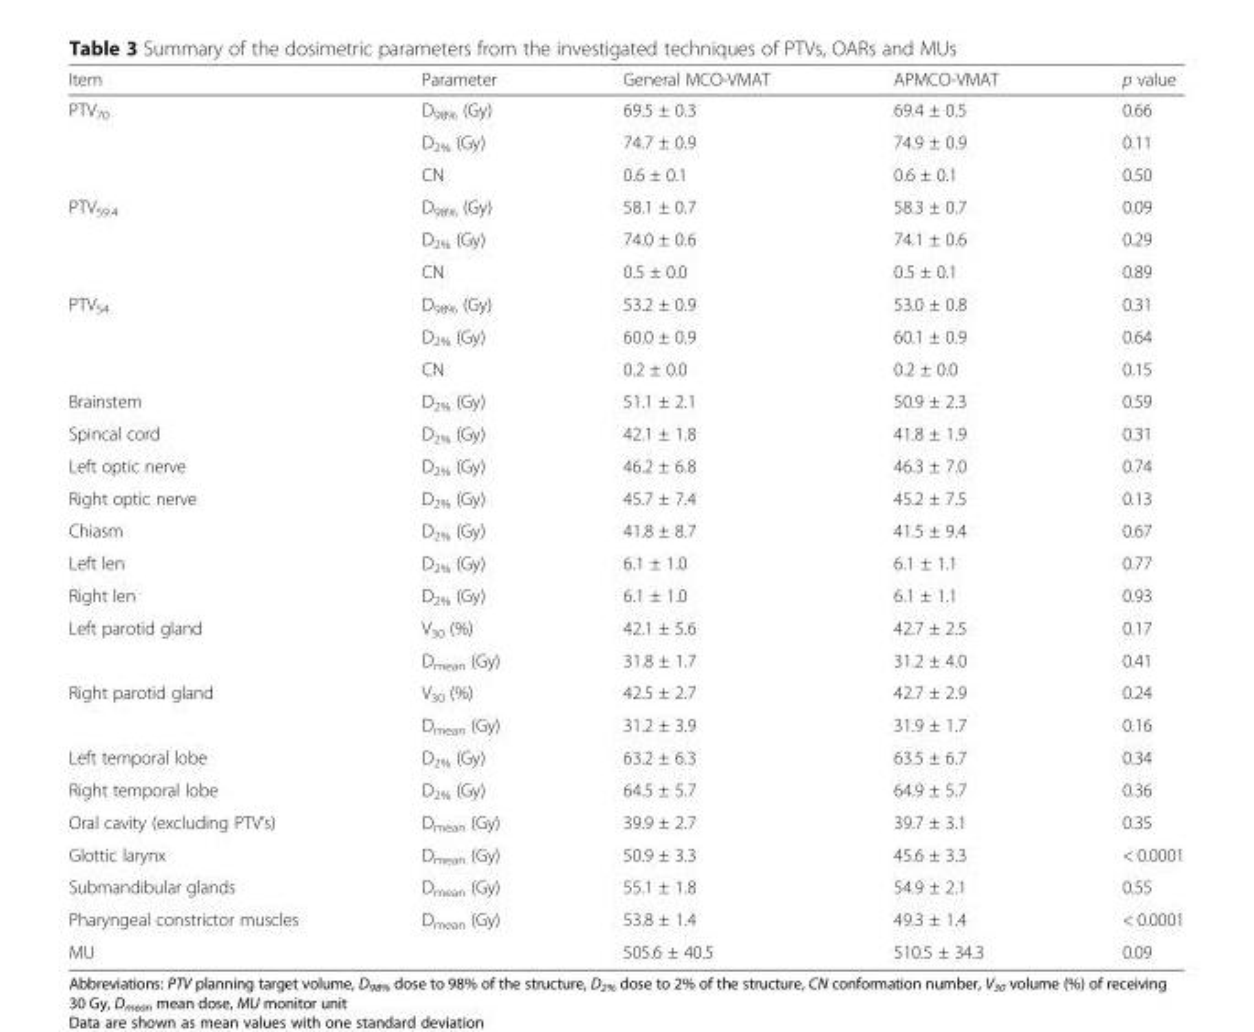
<table><thead><tr><td>Item</td><td>Parameter</td><td>General MCO-VMAT</td><td>APMCO-VMAT</td><td>p value</td></tr></thead><tbody><tr><td rowspan="3">PTV<sub>70</sub></td><td>D<sub>98%</sub> (Gy)</td><td>69.5 ± 0.3</td><td>69.4 ± 0.5</td><td>0.66</td></tr><tr><td>D<sub>2%</sub> (Gy)</td><td>74.7 ± 0.9</td><td>74.9 ± 0.9</td><td>0.11</td></tr><tr><td>CN</td><td>0.6 ± 0.1</td><td>0.6 ± 0.1</td><td>0.50</td></tr><tr><td rowspan="3">PTV<sub>59.4</sub></td><td>D<sub>98%</sub> (Gy)</td><td>58.1 ± 0.7</td><td>58.3 ± 0.7</td><td>0.09</td></tr><tr><td>D<sub>2%</sub> (Gy)</td><td>74.0 ± 0.6</td><td>74.1 ± 0.6</td><td>0.29</td></tr><tr><td>CN</td><td>0.5 ± 0.0</td><td>0.5 ± 0.1</td><td>0.89</td></tr><tr><td rowspan="3">PTV<sub>54</sub></td><td>D<sub>98%</sub> (Gy)</td><td>53.2 ± 0.9</td><td>53.0 ± 0.8</td><td>0.31</td></tr><tr><td>D<sub>2%</sub> (Gy)</td><td>60.0 ± 0.9</td><td>60.1 ± 0.9</td><td>0.64</td></tr><tr><td>CN</td><td>0.2 ± 0.0</td><td>0.2 ± 0.0</td><td>0.15</td></tr><tr><td>Brainstem</td><td>D<sub>2%</sub> (Gy)</td><td>51.1 ± 2.1</td><td>50.9 ± 2.3</td><td>0.59</td></tr><tr><td>Spincal cord</td><td>D<sub>2%</sub> (Gy)</td><td>42.1 ± 1.8</td><td>41.8 ± 1.9</td><td>0.31</td></tr><tr><td>Left optic nerve</td><td>D<sub>2%</sub> (Gy)</td><td>46.2 ± 6.8</td><td>46.3 ± 7.0</td><td>0.74</td></tr><tr><td>Right optic nerve</td><td>D<sub>2%</sub> (Gy)</td><td>45.7 ± 7.4</td><td>45.2 ± 7.5</td><td>0.13</td></tr><tr><td>Chiasm</td><td>D<sub>2%</sub> (Gy)</td><td>41.8 ± 8.7</td><td>41.5 ± 9.4</td><td>0.67</td></tr><tr><td>Left len</td><td>D<sub>2%</sub> (Gy)</td><td>6.1 ± 1.0</td><td>6.1 ± 1.1</td><td>0.77</td></tr><tr><td>Right len</td><td>D<sub>2%</sub> (Gy)</td><td>6.1 ± 1.0</td><td>6.1 ± 1.1</td><td>0.93</td></tr><tr><td rowspan="2">Left parotid gland</td><td>V<sub>30</sub> (%)</td><td>42.1 ± 5.6</td><td>42.7 ± 2.5</td><td>0.17</td></tr><tr><td>D<sub>mean</sub> (Gy)</td><td>31.8 ± 1.7</td><td>31.2 ± 4.0</td><td>0.41</td></tr><tr><td rowspan="2">Right parotid gland</td><td>V<sub>30</sub> (%)</td><td>42.5 ± 2.7</td><td>42.7 ± 2.9</td><td>0.24</td></tr><tr><td>D<sub>mean</sub> (Gy)</td><td>31.2 ± 3.9</td><td>31.9 ± 1.7</td><td>0.16</td></tr><tr><td>Left temporal lobe</td><td>D<sub>2%</sub> (Gy)</td><td>63.2 ± 6.3</td><td>63.5 ± 6.7</td><td>0.34</td></tr><tr><td>Right temporal lobe</td><td>D<sub>2%</sub> (Gy)</td><td>64.5 ± 5.7</td><td>64.9 ± 5.7</td><td>0.36</td></tr><tr><td>Oral cavity (excluding PTV’s)</td><td>D<sub>mean</sub> (Gy)</td><td>39.9 ± 2.7</td><td>39.7 ± 3.1</td><td>0.35</td></tr><tr><td>Glottic larynx</td><td>D<sub>mean</sub> (Gy)</td><td>50.9 ± 3.3</td><td>45.6 ± 3.3</td><td>&lt; 0.0001</td></tr><tr><td>Submandibular glands</td><td>D<sub>mean</sub> (Gy)</td><td>55.1 ± 1.8</td><td>54.9 ± 2.1</td><td>0.55</td></tr><tr><td>Pharyngeal constrictor muscles</td><td>D<sub>mean</sub> (Gy)</td><td>53.8 ± 1.4</td><td>49.3 ± 1.4</td><td>&lt; 0.0001</td></tr><tr><td>MU</td><td></td><td>505.6 ± 40.5</td><td>510.5 ± 34.3</td><td>0.09</td></tr></tbody></table>